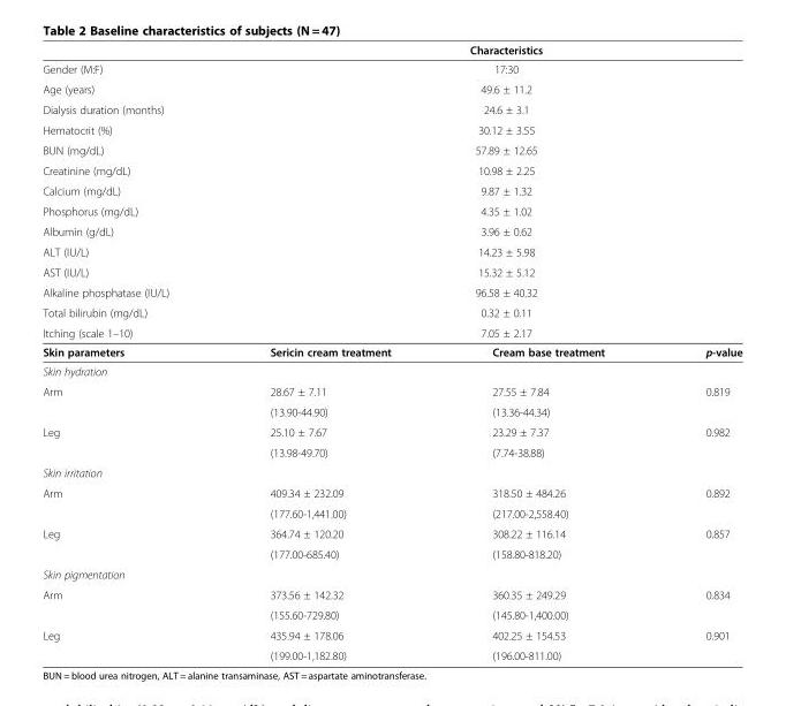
<table><thead><tr><td></td><td colspan="3">Characteristics</td></tr></thead><tbody><tr><td>Gender (M:F)</td><td colspan="3">17:30</td></tr><tr><td>Age (years)</td><td colspan="3">49.6 ± 11.2</td></tr><tr><td>Dialysis duration (months)</td><td colspan="3">24.6 ± 3.1</td></tr><tr><td>Hematocrit (%)</td><td colspan="3">30.12 ± 3.55</td></tr><tr><td>BUN (mg/dL)</td><td colspan="3">57.89 ± 12.65</td></tr><tr><td>Creatinine (mg/dL)</td><td colspan="3">10.98 ± 2.25</td></tr><tr><td>Calcium (mg/dL)</td><td colspan="3">9.87 ± 1.32</td></tr><tr><td>Phosphorus (mg/dL)</td><td colspan="3">4.35 ± 1.02</td></tr><tr><td>Albumin (g/dL)</td><td colspan="3">3.96 ± 0.62</td></tr><tr><td>ALT (IU/L)</td><td colspan="3">14.23 ± 5.98</td></tr><tr><td>AST (IU/L)</td><td colspan="3">15.32 ± 5.12</td></tr><tr><td>Alkaline phosphatase (IU/L)</td><td colspan="3">96.58 ± 40.32</td></tr><tr><td>Total bilirubin (mg/dL)</td><td colspan="3">0.32 ± 0.11</td></tr><tr><td>Itching (scale 1–10)</td><td colspan="3">7.05 ± 2.17</td></tr><tr><td>Skin parameters</td><td>Sericin cream treatment</td><td>Cream base treatment</td><td>p-value</td></tr><tr><td colspan="4">Skin hydration</td></tr><tr><td rowspan="2">Arm</td><td>28.67 ± 7.11</td><td>27.55 ± 7.84</td><td>0.819</td></tr><tr><td>(13.90-44.90)</td><td>(13.36-44.34)</td><td></td></tr><tr><td rowspan="2">Leg</td><td>25.10 ± 7.67</td><td>23.29 ± 7.37</td><td>0.982</td></tr><tr><td>(13.98-49.70)</td><td>(7.74-38.88)</td><td></td></tr><tr><td colspan="4">Skin irritation</td></tr><tr><td rowspan="2">Arm</td><td>409.34 ± 232.09</td><td>318.50 ± 484.26</td><td>0.892</td></tr><tr><td>(177.60-1,441.00)</td><td>(217.00-2,558.40)</td><td></td></tr><tr><td rowspan="2">Leg</td><td>364.74 ± 120.20</td><td>308.22 ± 116.14</td><td>0.857</td></tr><tr><td>(177.00-685.40)</td><td>(158.80-818.20)</td><td></td></tr><tr><td colspan="4">Skin pigmentation</td></tr><tr><td rowspan="2">Arm</td><td>373.56 ± 142.32</td><td>360.35 ± 249.29</td><td>0.834</td></tr><tr><td>(155.60-729.80)</td><td>(145.80-1,400.00)</td><td></td></tr><tr><td rowspan="2">Leg</td><td>435.94 ± 178.06</td><td>402.25 ± 154.53</td><td>0.901</td></tr><tr><td>(199.00-1,182.80)</td><td>(196.00-811.00)</td><td></td></tr></tbody></table>